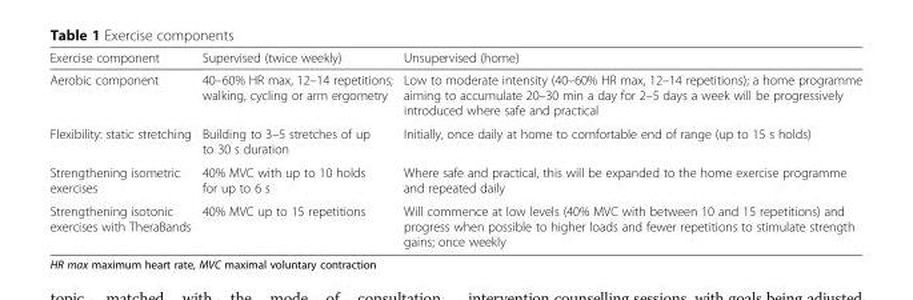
<table><thead><tr><td>Exercise component</td><td>Supervised (twice weekly)</td><td>Unsupervised (home)</td></tr></thead><tbody><tr><td>Aerobic component</td><td>40–60% HR max, 12–14 repetitions; walking, cycling or arm ergometry</td><td>Low to moderate intensity (40–60% HR max, 12–14 repetitions); a home programme aiming to accumulate 20–30 min a day for 2–5 days a week will be progressively introduced where safe and practical</td></tr><tr><td>Flexibility: static stretching</td><td>Building to 3–5 stretches of up to 30 s duration</td><td>Initially, once daily at home to comfortable end of range (up to 15 s holds)</td></tr><tr><td>Strengthening isometric exercises</td><td>40% MVC with up to 10 holds for up to 6 s</td><td>Where safe and practical, this will be expanded to the home exercise programme and repeated daily</td></tr><tr><td>Strengthening isotonic exercises with TheraBands</td><td>40% MVC up to 15 repetitions</td><td>Will commence at low levels (40% MVC with between 10 and 15 repetitions) and progress when possible to higher loads and fewer repetitions to stimulate strength gains; once weekly</td></tr></tbody></table>